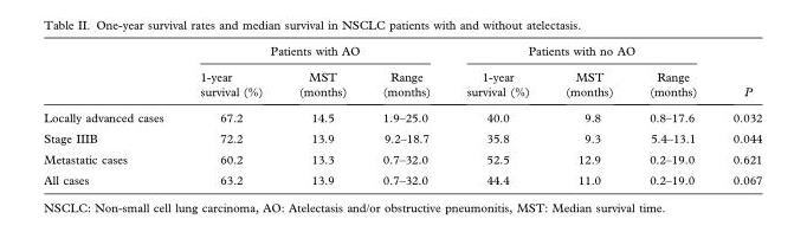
<table><thead><tr><td rowspan="2"></td><td colspan="3">Patients with AO</td><td colspan="3">Patients with no AO</td><td rowspan="2">P</td></tr><tr><td>1-year survival (%)</td><td>MST (months)</td><td>Range (months)</td><td>1-year survival (%)</td><td>MST (months)</td><td>Range (months)</td></tr></thead><tbody><tr><td>Locally advanced cases</td><td>67.2</td><td>14.5</td><td>1.9–25.0</td><td>40.0</td><td>9.8</td><td>0.8–17.6</td><td>0.032</td></tr><tr><td>Stage IIIB</td><td>72.2</td><td>13.9</td><td>9.2–18.7</td><td>35.8</td><td>9.3</td><td>5.4–13.1</td><td>0.044</td></tr><tr><td>Metastatic cases</td><td>60.2</td><td>13.3</td><td>0.7–32.0</td><td>52.5</td><td>12.9</td><td>0.2–19.0</td><td>0.621</td></tr><tr><td>All cases</td><td>63.2</td><td>13.9</td><td>0.7–32.0</td><td>44.4</td><td>11.0</td><td>0.2–19.0</td><td>0.067</td></tr></tbody></table>